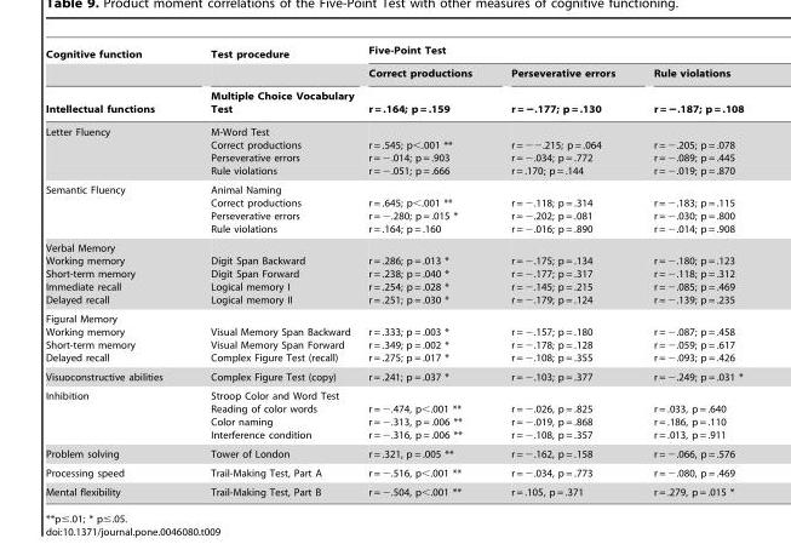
<table><thead><tr><td rowspan="3">Cognitive function Intellectual functions</td><td rowspan="3">Test procedure Multiple Choice Vocabulary Test</td><td colspan="3">Five-Point Test</td></tr><tr><td rowspan="2">Correct productions r = .164; p = .159</td><td rowspan="2">Perseverative errors r = −.177; p = .130</td><td rowspan="2">Rule violations r = −.187; p = .108</td></tr><tr></tr></thead><tbody><tr><td>Letter Fluency</td><td>M-Word Test Correct productions Perseverative errors Rule violations</td><td>r = .545; p&lt;.001 ** r = −.014; p = .903 r = −.051; p = .666</td><td>r = −−.215; p = .064 r = −.034; p = .772 r = .170; p = .144</td><td>r = −.205; p = .078 r = −.089; p = .445 r = −.019; p = .870</td></tr><tr><td>Semantic Fluency</td><td>Animal Naming Correct productions Perseverative errors Rule violations</td><td>r = .645; p&lt;.001 ** r = −.280; p = .015 * r = .164; p = .160</td><td>r = −.118; p = .314 r = −.202; p = .081 r = −.016; p = .890</td><td>r = −.183; p = .115 r = −.030; p = .800 r = −.014; p = .908</td></tr><tr><td>Verbal Memory Working memory Short-term memory Immediate recall Delayed recall</td><td>Digit Span Backward Digit Span Forward Logical memory I Logical memory II</td><td>r = .286; p = .013 * r = .238; p = .040 * r = .254; p = .028 * r = .251; p = .030 *</td><td>r = −.175; p = .134 r = −.177; p = .317 r = −.145; p = .215 r = −.179; p = .124</td><td>r = −.180; p = .123 r = −.118; p = .312 r = −.085; p = .469 r = −.139; p = .235</td></tr><tr><td>Figural Memory Working memory Short-term memory Delayed recall</td><td>Visual Memory Span Backward Visual Memory Span Forward Complex Figure Test (recall)</td><td>r = .333; p = .003 * r = .349; p = .002 * r = .275; p = .017 *</td><td>r = −.157; p = .180 r = −.178; p = .128 r = −.108; p = .355</td><td>r = −.087; p = .458 r = −.059; p = .617 r = −.093; p = .426</td></tr><tr><td>Visuoconstructive abilities</td><td>Complex Figure Test (copy)</td><td>r = .241; p = .037 *</td><td>r = −.103; p = .377</td><td>r = −.249; p = .031 *</td></tr><tr><td>Inhibition</td><td>Stroop Color and Word Test Reading of color words Color naming Interference condition</td><td>r = −.474, p&lt;.001 ** r = −.313, p = .006 ** r = −.316, p = .006 **</td><td>r = −.026, p = .825 r = −.019, p = .868 r = −.108, p = .357</td><td>r = .033, p = .640 r = .186, p = .110 r = .013, p = .911</td></tr><tr><td>Problem solving</td><td>Tower of London</td><td>r = .321, p = .005 **</td><td>r = −.162, p = .158</td><td>r = −.066, p = .576</td></tr><tr><td>Processing speed</td><td>Trail-Making Test, Part A</td><td>r = −.516, p&lt;.001 **</td><td>r = −.034, p = .773</td><td>r = −.080, p = .469</td></tr><tr><td>Mental flexibility</td><td>Trail-Making Test, Part B</td><td>r = −.504, p&lt;.001 **</td><td>r = .105, p = .371</td><td>r = .279, p = .015 *</td></tr></tbody></table>